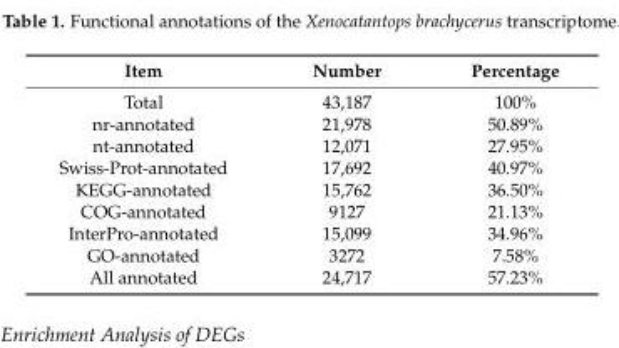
<table><thead><tr><td>Item</td><td>Number</td><td>Percentage</td></tr></thead><tbody><tr><td>Total</td><td>43,187</td><td>100%</td></tr><tr><td>nr-annotated</td><td>21,978</td><td>50.89%</td></tr><tr><td>nt-annotated</td><td>12,071</td><td>27.95%</td></tr><tr><td>Swiss-Prot-annotated</td><td>17,692</td><td>40.97%</td></tr><tr><td>KEGG-annotated</td><td>15,762</td><td>36.50%</td></tr><tr><td>COG-annotated</td><td>9127</td><td>21.13%</td></tr><tr><td>InterPro-annotated</td><td>15,099</td><td>34.96%</td></tr><tr><td>GO-annotated</td><td>3272</td><td>7.58%</td></tr><tr><td>All annotated</td><td>24,717</td><td>57.23%</td></tr></tbody></table>